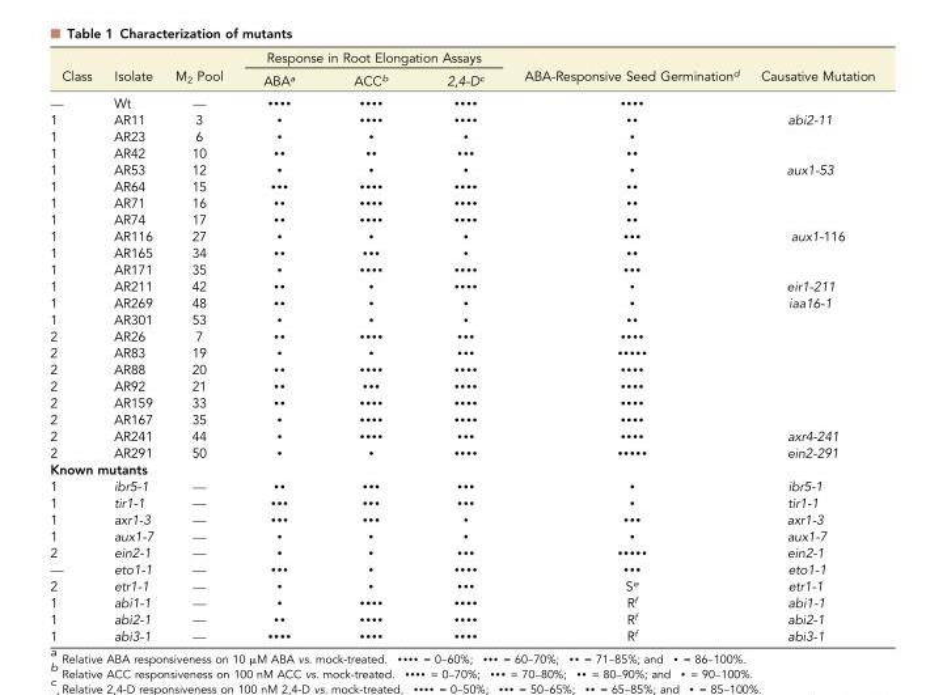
<table><thead><tr><td rowspan="2">Class</td><td rowspan="2">Isolate</td><td rowspan="2">M<sub>2</sub> Pool</td><td colspan="3">Response in Root Elongation Assays</td><td rowspan="2">ABA-Responsive Seed Germination<sup>d</sup></td><td rowspan="2">Causative Mutation</td></tr><tr><td>ABA<sup>a</sup></td><td>ACC<sup>b</sup></td><td>2,4-D<sup>c</sup></td></tr></thead><tbody><tr><td>—</td><td>Wt</td><td>—</td><td>••••</td><td>••••</td><td>••••</td><td>••••</td><td></td></tr><tr><td>1</td><td>AR11</td><td>3</td><td>•</td><td>••••</td><td>••••</td><td>••</td><td>abi2-11</td></tr><tr><td>1</td><td>AR23</td><td>6</td><td>•</td><td>•</td><td>•</td><td>•</td><td></td></tr><tr><td>1</td><td>AR42</td><td>10</td><td>••</td><td>••</td><td>•••</td><td>••</td><td></td></tr><tr><td>1</td><td>AR53</td><td>12</td><td>•</td><td>•</td><td>•</td><td>•</td><td>aux1-53</td></tr><tr><td>1</td><td>AR64</td><td>15</td><td>•••</td><td>••••</td><td>••••</td><td>••</td><td></td></tr><tr><td>1</td><td>AR71</td><td>16</td><td>••</td><td>••••</td><td>••••</td><td>••</td><td></td></tr><tr><td>1</td><td>AR74</td><td>17</td><td>••</td><td>••••</td><td>••••</td><td>••</td><td></td></tr><tr><td>1</td><td>AR116</td><td>27</td><td>•</td><td>•</td><td>•</td><td>•••</td><td>aux1-116</td></tr><tr><td>1</td><td>AR165</td><td>34</td><td>••</td><td>•••</td><td>•</td><td>••</td><td></td></tr><tr><td>1</td><td>AR171</td><td>35</td><td>•</td><td>••••</td><td>••••</td><td>•••</td><td></td></tr><tr><td>1</td><td>AR211</td><td>42</td><td>••</td><td>•</td><td>••••</td><td>•</td><td>eir1-211</td></tr><tr><td>1</td><td>AR269</td><td>48</td><td>••</td><td>•</td><td>•</td><td>•</td><td>iaa16-1</td></tr><tr><td>1</td><td>AR301</td><td>53</td><td>•</td><td>•</td><td>•</td><td>••</td><td></td></tr><tr><td>2</td><td>AR26</td><td>7</td><td>••</td><td>••••</td><td>•••</td><td>••••</td><td></td></tr><tr><td>2</td><td>AR83</td><td>19</td><td>•</td><td>•</td><td>•••</td><td>•••••</td><td></td></tr><tr><td>2</td><td>AR88</td><td>20</td><td>••</td><td>••••</td><td>••••</td><td>••••</td><td></td></tr><tr><td>2</td><td>AR92</td><td>21</td><td>••</td><td>•••</td><td>••••</td><td>••••</td><td></td></tr><tr><td>2</td><td>AR159</td><td>33</td><td>••</td><td>••••</td><td>••••</td><td>••••</td><td></td></tr><tr><td>2</td><td>AR167</td><td>35</td><td>•</td><td>••••</td><td>••••</td><td>••••</td><td></td></tr><tr><td>2</td><td>AR241</td><td>44</td><td>•</td><td>••••</td><td>•••</td><td>••••</td><td>axr4-241</td></tr><tr><td>2</td><td>AR291</td><td>50</td><td>•</td><td>•</td><td>••••</td><td>•••••</td><td>ein2-291</td></tr><tr><td colspan="8">Known mutants</td></tr><tr><td>1</td><td>ibr5-1</td><td>—</td><td>••</td><td>•••</td><td>•••</td><td>•</td><td>ibr5-1</td></tr><tr><td>1</td><td>tir1-1</td><td>—</td><td>•••</td><td>•••</td><td>•••</td><td>•</td><td>tir1-1</td></tr><tr><td>1</td><td>axr1-3</td><td>—</td><td>•••</td><td>•••</td><td>•</td><td>•••</td><td>axr1-3</td></tr><tr><td>1</td><td>aux1-7</td><td>—</td><td>•</td><td>•</td><td>•</td><td>•</td><td>aux1-7</td></tr><tr><td>2</td><td>ein2-1</td><td>—</td><td>•</td><td>•</td><td>•••</td><td>•••••</td><td>ein2-1</td></tr><tr><td>—</td><td>eto1-1</td><td>—</td><td>•••</td><td>•</td><td>••••</td><td>•••</td><td>eto1-1</td></tr><tr><td>2</td><td>etr1-1</td><td>—</td><td>•</td><td>•</td><td>•••</td><td>S<sup>e</sup></td><td>etr1-1</td></tr><tr><td>1</td><td>abi1-1</td><td>—</td><td>•</td><td>••••</td><td>••••</td><td>R<sup>f</sup></td><td>abi1-1</td></tr><tr><td>1</td><td>abi2-1</td><td>—</td><td>••</td><td>••••</td><td>••••</td><td>R<sup>f</sup></td><td>abi2-1</td></tr><tr><td>1</td><td>abi3-1</td><td>—</td><td>••••</td><td>••••</td><td>••••</td><td>R<sup>f</sup></td><td>abi3-1</td></tr></tbody></table>